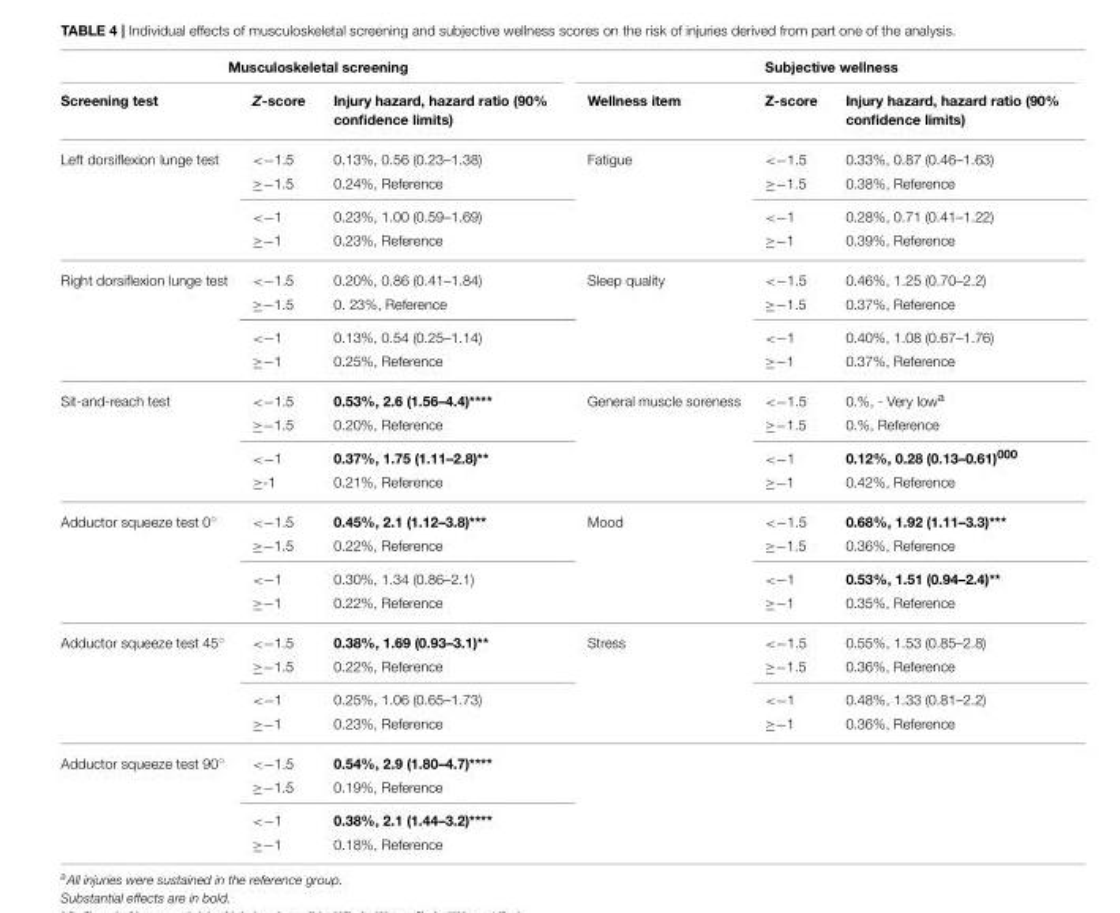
<table><thead><tr><td colspan="3">Musculoskeletal screening</td><td colspan="3">Subjective wellness</td></tr><tr><td>Screening test</td><td>Z-score</td><td>Injury hazard, hazard ratio (90% confidence limits)</td><td>Wellness item</td><td>Z-score</td><td>Injury hazard, hazard ratio (90% confidence limits)</td></tr></thead><tbody><tr><td rowspan="4">Left dorsiflexion lunge test</td><td>&lt;−1.5</td><td>0.13%, 0.56 (0.23–1.38)</td><td>Fatigue</td><td>&lt;−1.5</td><td>0.33%, 0.87 (0.46–1.63)</td></tr><tr><td>≥−1.5</td><td>0.24%, Reference</td><td></td><td>≥−1.5</td><td>0.38%, Reference</td></tr><tr><td>&lt;−1</td><td>0.23%, 1.00 (0.59–1.69)</td><td></td><td>&lt;−1</td><td>0.28%, 0.71 (0.41–1.22)</td></tr><tr><td>≥−1</td><td>0.23%, Reference</td><td></td><td>≥−1</td><td>0.39%, Reference</td></tr><tr><td rowspan="4">Right dorsiflexion lunge test</td><td>&lt;−1.5</td><td>0.20%, 0.86 (0.41–1.84)</td><td>Sleep quality</td><td>&lt;−1.5</td><td>0.46%, 1.25 (0.70–2.2)</td></tr><tr><td>≥−1.5</td><td>0. 23%, Reference</td><td></td><td>≥−1.5</td><td>0.37%, Reference</td></tr><tr><td>&lt;−1</td><td>0.13%, 0.54 (0.25–1.14)</td><td></td><td>&lt;−1</td><td>0.40%, 1.08 (0.67–1.76)</td></tr><tr><td>≥−1</td><td>0.25%, Reference</td><td></td><td>≥−1</td><td>0.37%, Reference</td></tr><tr><td rowspan="4">Sit-and-reach test</td><td>&lt;−1.5</td><td>0.53%, 2.6 (1.56–4.4)****</td><td>General muscle soreness</td><td>&lt;−1.5</td><td>0.%, - Very low<sup>a</sup></td></tr><tr><td>≥−1.5</td><td>0.20%, Reference</td><td></td><td>≥−1.5</td><td>0.%, Reference</td></tr><tr><td>&lt;−1</td><td>0.37%, 1.75 (1.11–2.8)**</td><td></td><td>&lt;−1</td><td>0.12%, 0.28 (0.13–0.61)<sup>000</sup></td></tr><tr><td>≥-1</td><td>0.21%, Reference</td><td></td><td>≥−1</td><td>0.42%, Reference</td></tr><tr><td rowspan="4">Adductor squeeze test 0◦</td><td>&lt;−1.5</td><td>0.45%, 2.1 (1.12–3.8)***</td><td>Mood</td><td>&lt;−1.5</td><td>0.68%, 1.92 (1.11–3.3)***</td></tr><tr><td>≥−1.5</td><td>0.22%, Reference</td><td></td><td>≥−1.5</td><td>0.36%, Reference</td></tr><tr><td>&lt;−1</td><td>0.30%, 1.34 (0.86–2.1)</td><td></td><td>&lt;−1</td><td>0.53%, 1.51 (0.94–2.4)**</td></tr><tr><td>≥−1</td><td>0.22%, Reference</td><td></td><td>≥−1</td><td>0.35%, Reference</td></tr><tr><td rowspan="4">Adductor squeeze test 45◦</td><td>&lt;−1.5</td><td>0.38%, 1.69 (0.93–3.1)**</td><td>Stress</td><td>&lt;−1.5</td><td>0.55%, 1.53 (0.85–2.8)</td></tr><tr><td>≥−1.5</td><td>0.22%, Reference</td><td></td><td>≥−1.5</td><td>0.36%, Reference</td></tr><tr><td>&lt;−1</td><td>0.25%, 1.06 (0.65–1.73)</td><td></td><td>&lt;−1</td><td>0.48%, 1.33 (0.81–2.2)</td></tr><tr><td>≥−1</td><td>0.23%, Reference</td><td></td><td>≥−1</td><td>0.36%, Reference</td></tr><tr><td rowspan="4">Adductor squeeze test 90◦</td><td>&lt;−1.5</td><td>0.54%, 2.9 (1.80–4.7)****</td><td></td><td></td><td></td></tr><tr><td>≥−1.5</td><td>0.19%, Reference</td><td></td><td></td><td></td></tr><tr><td>&lt;−1</td><td>0.38%, 2.1 (1.44–3.2)****</td><td></td><td></td><td></td></tr><tr><td>≥−1</td><td>0.18%, Reference</td><td></td><td></td><td></td></tr></tbody></table>